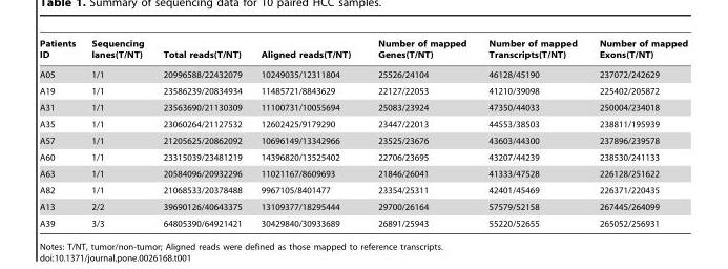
<table><thead><tr><td>Patients ID</td><td>Sequencing lanes(T/NT)</td><td>Total reads(T/NT)</td><td>Aligned reads(T/NT)</td><td>Number of mapped Genes(T/NT)</td><td>Number of mapped Transcripts(T/NT)</td><td>Number of mapped Exons(T/NT)</td></tr></thead><tbody><tr><td>A05</td><td>1/1</td><td>20996588/22432079</td><td>10249035/12311804</td><td>25526/24104</td><td>46128/45190</td><td>237072/242629</td></tr><tr><td>A19</td><td>1/1</td><td>23586239/20834934</td><td>11485721/8843629</td><td>22127/22053</td><td>41210/39098</td><td>225402/205872</td></tr><tr><td>A31</td><td>1/1</td><td>23563690/21130309</td><td>11100731/10055694</td><td>25083/23924</td><td>47350/44033</td><td>250004/234018</td></tr><tr><td>A35</td><td>1/1</td><td>23060264/21127532</td><td>12602425/9179290</td><td>23447/22013</td><td>44553/38503</td><td>238811/195939</td></tr><tr><td>A57</td><td>1/1</td><td>21205625/20862092</td><td>10696149/13342966</td><td>23525/23676</td><td>43603/44300</td><td>237896/239578</td></tr><tr><td>A60</td><td>1/1</td><td>23315039/23481219</td><td>14396820/13525402</td><td>22706/23695</td><td>43207/44239</td><td>238530/241133</td></tr><tr><td>A63</td><td>1/1</td><td>20584096/20932296</td><td>11021167/8609693</td><td>21846/26041</td><td>41333/47528</td><td>226128/251622</td></tr><tr><td>A82</td><td>1/1</td><td>21068533/20378488</td><td>9967105/8401477</td><td>23354/25311</td><td>42401/45469</td><td>226371/220435</td></tr><tr><td>A13</td><td>2/2</td><td>39690126/40643375</td><td>13109377/18295444</td><td>29700/26164</td><td>57579/52158</td><td>267445/264099</td></tr><tr><td>A39</td><td>3/3</td><td>64805390/64921421</td><td>30429840/30933689</td><td>26891/25943</td><td>55220/52655</td><td>265052/256931</td></tr></tbody></table>